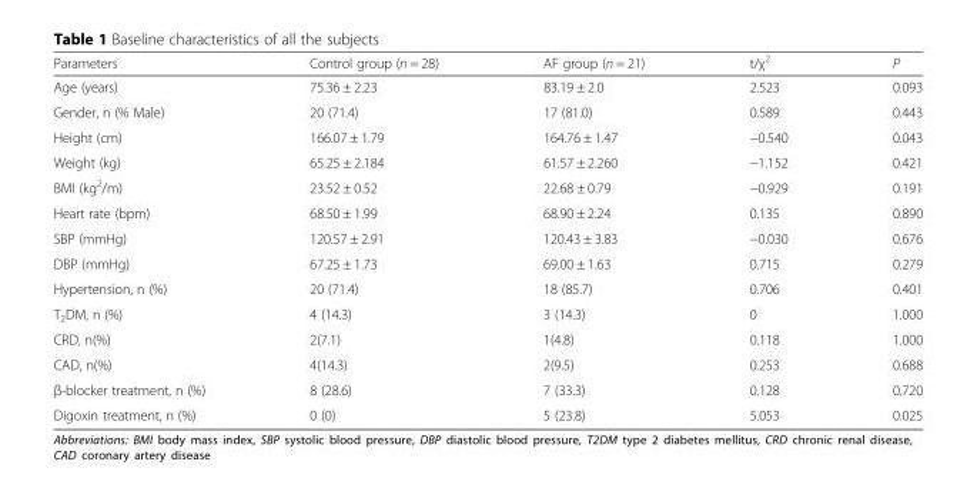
<table><thead><tr><td>Parameters</td><td>Control group (n = 28)</td><td>AF group (n = 21)</td><td>t/χ<sup>2</sup></td><td>P</td></tr></thead><tbody><tr><td>Age (years)</td><td>75.36 ± 2.23</td><td>83.19 ± 2.0</td><td>2.523</td><td>0.093</td></tr><tr><td>Gender, n (% Male)</td><td>20 (71.4)</td><td>17 (81.0)</td><td>0.589</td><td>0.443</td></tr><tr><td>Height (cm)</td><td>166.07 ± 1.79</td><td>164.76 ± 1.47</td><td>−0.540</td><td>0.043</td></tr><tr><td>Weight (kg)</td><td>65.25 ± 2.184</td><td>61.57 ± 2.260</td><td>−1.152</td><td>0.421</td></tr><tr><td>BMI (kg<sup>2</sup>/m)</td><td>23.52 ± 0.52</td><td>22.68 ± 0.79</td><td>−0.929</td><td>0.191</td></tr><tr><td>Heart rate (bpm)</td><td>68.50 ± 1.99</td><td>68.90 ± 2.24</td><td>0.135</td><td>0.890</td></tr><tr><td>SBP (mmHg)</td><td>120.57 ± 2.91</td><td>120.43 ± 3.83</td><td>−0.030</td><td>0.676</td></tr><tr><td>DBP (mmHg)</td><td>67.25 ± 1.73</td><td>69.00 ± 1.63</td><td>0.715</td><td>0.279</td></tr><tr><td>Hypertension, n (%)</td><td>20 (71.4)</td><td>18 (85.7)</td><td>0.706</td><td>0.401</td></tr><tr><td>T<sub>2</sub>DM, n (%)</td><td>4 (14.3)</td><td>3 (14.3)</td><td>0</td><td>1.000</td></tr><tr><td>CRD, n(%)</td><td>2(7.1)</td><td>1(4.8)</td><td>0.118</td><td>1.000</td></tr><tr><td>CAD, n(%)</td><td>4(14.3)</td><td>2(9.5)</td><td>0.253</td><td>0.688</td></tr><tr><td>β-blocker treatment, n (%)</td><td>8 (28.6)</td><td>7 (33.3)</td><td>0.128</td><td>0.720</td></tr><tr><td>Digoxin treatment, n (%)</td><td>0 (0)</td><td>5 (23.8)</td><td>5.053</td><td>0.025</td></tr></tbody></table>